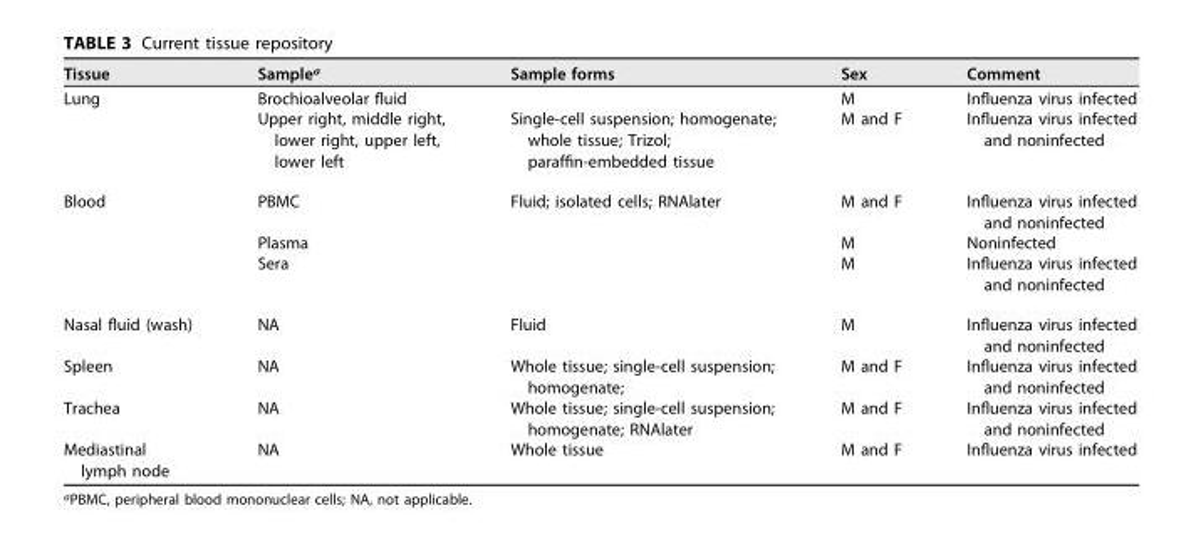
<table><thead><tr><td>Tissue</td><td>Sample<sup>a</sup></td><td>Sample forms</td><td>Sex</td><td>Comment</td></tr></thead><tbody><tr><td rowspan="2">Lung</td><td>Brochioalveolar fluid</td><td></td><td>M</td><td>Influenza virus infected</td></tr><tr><td>Upper right, middle right, lower right, upper left, lower left</td><td>Single-cell suspension; homogenate; whole tissue; Trizol; paraffin-embedded tissue</td><td>M and F</td><td>Influenza virus infected and noninfected</td></tr><tr><td rowspan="3">Blood</td><td>PBMC</td><td>Fluid; isolated cells; RNAlater</td><td>M and F</td><td>Influenza virus infected and noninfected</td></tr><tr><td>Plasma</td><td></td><td>M</td><td>Noninfected</td></tr><tr><td>Sera</td><td></td><td>M</td><td>Influenza virus infected and noninfected</td></tr><tr><td>Nasal fluid (wash)</td><td>NA</td><td>Fluid</td><td>M</td><td>Influenza virus infected and noninfected</td></tr><tr><td>Spleen</td><td>NA</td><td>Whole tissue; single-cell suspension; homogenate;</td><td>M and F</td><td>Influenza virus infected and noninfected</td></tr><tr><td>Trachea</td><td>NA</td><td>Whole tissue; single-cell suspension; homogenate; RNAlater</td><td>M and F</td><td>Influenza virus infected and noninfected</td></tr><tr><td>Mediastinal lymph node</td><td>NA</td><td>Whole tissue</td><td>M and F</td><td>Influenza virus infected</td></tr></tbody></table>